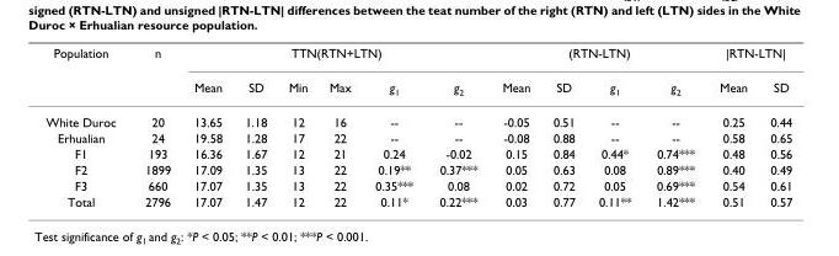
<table><thead><tr><td rowspan="2">Population</td><td rowspan="2">n</td><td colspan="6">TTN(RTN+LTN)</td><td colspan="4">(RTN-LTN)</td><td colspan="2">|RTN-LTN|</td></tr><tr><td>Mean</td><td>SD</td><td>Min</td><td>Max</td><td>g<sub>1</sub></td><td>g<sub>2</sub></td><td>Mean</td><td>SD</td><td>g<sub>1</sub></td><td>g<sub>2</sub></td><td>Mean</td><td>SD</td></tr></thead><tbody><tr><td>White Duroc</td><td>20</td><td>13.65</td><td>1.18</td><td>12</td><td>16</td><td>--</td><td>--</td><td>-0.05</td><td>0.51</td><td>--</td><td>--</td><td>0.25</td><td>0.44</td></tr><tr><td>Erhualian</td><td>24</td><td>19.58</td><td>1.28</td><td>17</td><td>22</td><td>--</td><td>--</td><td>-0.08</td><td>0.88</td><td>--</td><td>--</td><td>0.58</td><td>0.65</td></tr><tr><td>F1</td><td>193</td><td>16.36</td><td>1.67</td><td>12</td><td>21</td><td>0.24</td><td>-0.02</td><td>0.15</td><td>0.84</td><td>0.44*</td><td>0.74***</td><td>0.48</td><td>0.56</td></tr><tr><td>F2</td><td>1899</td><td>17.09</td><td>1.35</td><td>13</td><td>22</td><td>0.19**</td><td>0.37***</td><td>0.05</td><td>0.63</td><td>0.08</td><td>0.89***</td><td>0.40</td><td>0.49</td></tr><tr><td>F3</td><td>660</td><td>17.07</td><td>1.35</td><td>13</td><td>22</td><td>0.35***</td><td>0.08</td><td>0.02</td><td>0.72</td><td>0.05</td><td>0.69***</td><td>0.54</td><td>0.61</td></tr><tr><td>Total</td><td>2796</td><td>17.07</td><td>1.47</td><td>12</td><td>22</td><td>0.11*</td><td>0.22***</td><td>0.03</td><td>0.77</td><td>0.11**</td><td>1.42***</td><td>0.51</td><td>0.57</td></tr></tbody></table>